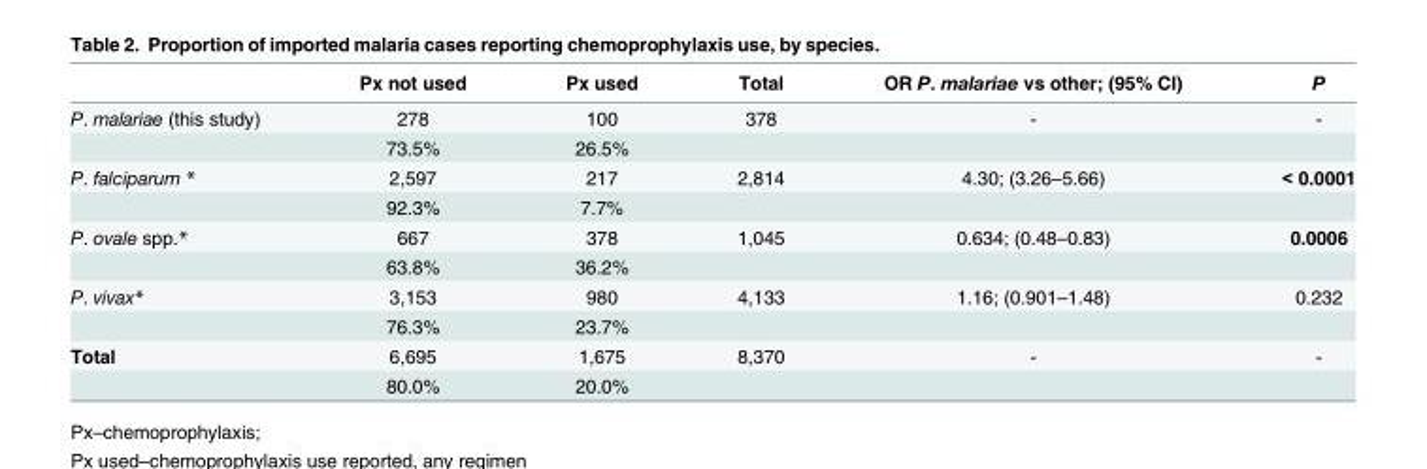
<table><thead><tr><td></td><td>Px not used</td><td>Px used</td><td>Total</td><td>OR P. malariae vs other; (95% CI)</td><td>P</td></tr></thead><tbody><tr><td rowspan="2">P. malariae (this study)</td><td>278</td><td>100</td><td>378</td><td>-</td><td>-</td></tr><tr><td>73.5%</td><td>26.5%</td><td></td><td></td><td></td></tr><tr><td rowspan="2">P. falciparum *</td><td>2,597</td><td>217</td><td>2,814</td><td>4.30; (3.26–5.66)</td><td>&lt; 0.0001</td></tr><tr><td>92.3%</td><td>7.7%</td><td></td><td></td><td></td></tr><tr><td rowspan="2">P. ovale spp.*</td><td>667</td><td>378</td><td>1,045</td><td>0.634; (0.48–0.83)</td><td>0.0006</td></tr><tr><td>63.8%</td><td>36.2%</td><td></td><td></td><td></td></tr><tr><td rowspan="2">P. vivax*</td><td>3,153</td><td>980</td><td>4,133</td><td>1.16; (0.901–1.48)</td><td>0.232</td></tr><tr><td>76.3%</td><td>23.7%</td><td></td><td></td><td></td></tr><tr><td rowspan="2">Total</td><td>6,695</td><td>1,675</td><td>8,370</td><td>-</td><td>-</td></tr><tr><td>80.0%</td><td>20.0%</td><td></td><td></td><td></td></tr></tbody></table>